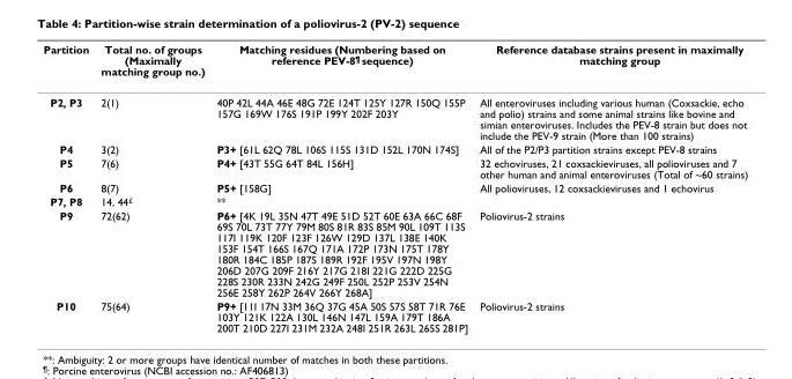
<table><thead><tr><td>Partition</td><td>Total no. of groups (Maximally matching group no.)</td><td>Matching residues (Numbering based on reference PEV-8<sup>¶</sup> sequence)</td><td>Reference database strains present in maximally matching group</td></tr></thead><tbody><tr><td>P2, P3</td><td>2(1)</td><td>40P 42L 44A 46E 48G 72E 124T 125Y 127R 150Q 155P 157G 169W 176S 191P 199Y 202F 203Y</td><td>All enteroviruses including various human (Coxsackie, echo and polio) strains and some animal strains like bovine and simian enteroviruses. Includes the PEV-8 strain but does not include the PEV-9 strain (More than 100 strains)</td></tr><tr><td>P4</td><td>3(2)</td><td>P3+ [61L 62Q 78L 106S 115S 131D 152L 170N 174S]</td><td>All of the P2/P3 partition strains except PEV-8 strains</td></tr><tr><td>P5</td><td>7(6)</td><td>P4+ [43T 55G 64T 84L 156H]</td><td>32 echoviruses, 21 coxsackieviruses, all polioviruses and 7 other human and animal enteroviruses (Total of ~60 strains)</td></tr><tr><td>P6</td><td>8(7)</td><td>P5+ [158G]</td><td>All polioviruses, 12 coxsackieviruses and 1 echovirus</td></tr><tr><td>P7, P8</td><td>14, 44<sup>£</sup></td><td>**</td><td></td></tr><tr><td>P9</td><td>72(62)</td><td>P6+ [4K 19L 35N 47T 49E 51D 52T 60E 63A 66C 68F 69S 70L 73T 77Y 79M 80S 81R 83S 85M 90L 109T 113S 117I 119K 120F 123F 126W 129D 137L 138E 140K 153F 154T 166S 167Q 171A 172P 173N 175T 178Y 180R 184C 185P 187S 189R 192F 195V 197N 198Y 206D 207G 209F 216Y 217G 218I 221G 222D 225G 228S 230R 233N 242G 249F 250L 252P 253V 254N 256E 258Y 262P 264V 266Y 268A]</td><td>Poliovirus-2 strains</td></tr><tr><td>P10</td><td>75(64)</td><td>P9+ [11I 17N 33M 36Q 37G 45A 50S 57S 58T 71R 76E 103Y 121K 122A 130L 146N 147L 159A 179T 186A 200T 210D 227I 231M 232A 248I 251R 263L 265S 281P]</td><td>Poliovirus-2 strains</td></tr></tbody></table>